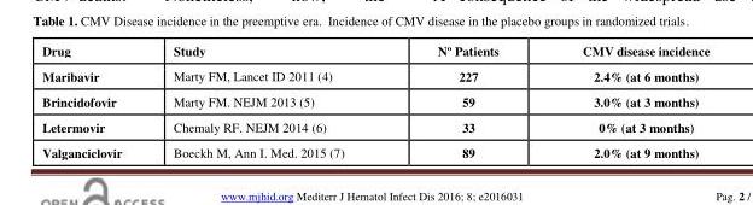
<table><thead><tr><td>Drug</td><td>Study</td><td>Nº Patients</td><td>CMV disease incidence</td></tr></thead><tbody><tr><td>Maribavir</td><td>Marty FM, Lancet ID 2011 (4)</td><td>227</td><td>2.4% (at 6 months)</td></tr><tr><td>Brincidofovir</td><td>Marty FM. NEJM 2013 (5)</td><td>59</td><td>3.0% (at 3 months)</td></tr><tr><td>Letermovir</td><td>Chemaly RF. NEJM 2014 (6)</td><td>33</td><td>0% (at 3 months)</td></tr><tr><td>Valganciclovir</td><td>Boeckh M, Ann I. Med. 2015 (7)</td><td>89</td><td>2.0% (at 9 months)</td></tr></tbody></table>